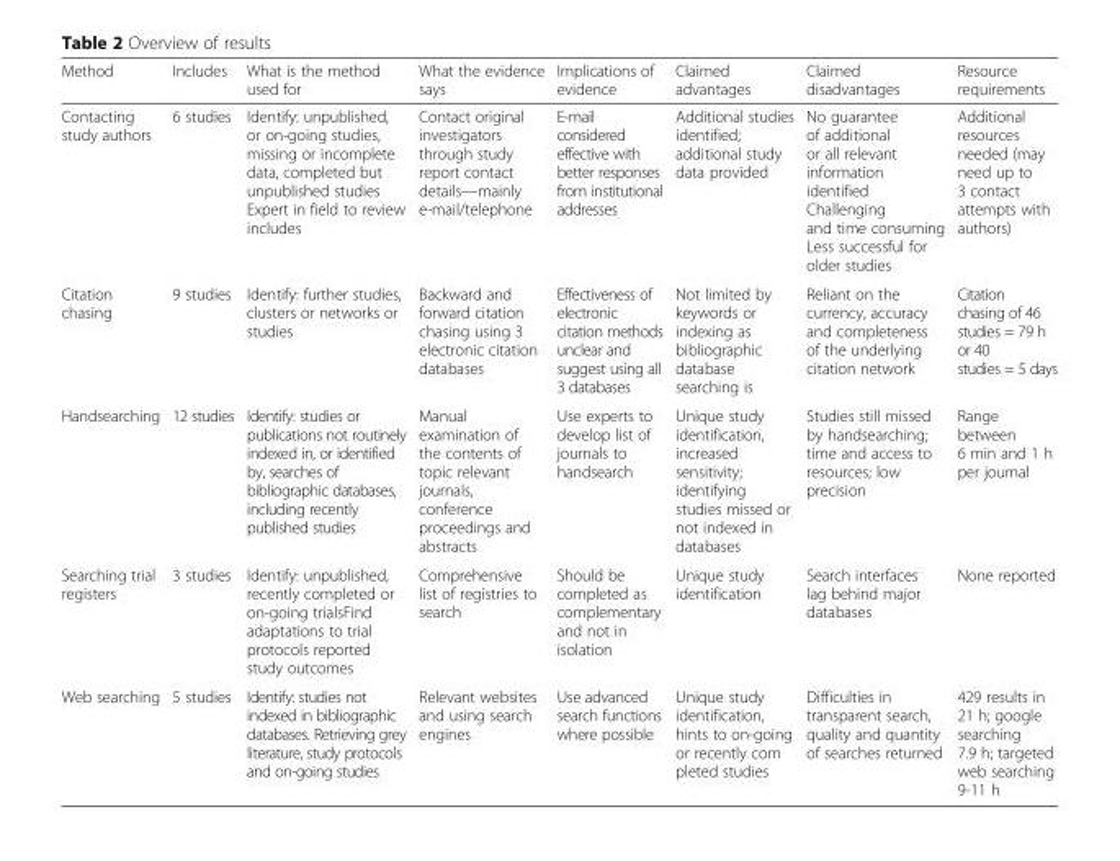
<table><thead><tr><td>Method</td><td>Includes</td><td>What is the method used for</td><td>What the evidence says</td><td>Implications of evidence</td><td>Claimed advantages</td><td>Claimed disadvantages</td><td>Resource requirements</td></tr></thead><tbody><tr><td>Contacting study authors</td><td>6 studies</td><td>Identify: unpublished, or on-going studies, missing or incomplete data, completed but unpublished studies Expert in field to review includes</td><td>Contact original investigators through study report contact details—mainly e-mail/telephone</td><td>E-mail considered effective with better responses from institutional addresses</td><td>Additional studies identified; additional study data provided</td><td>No guarantee of additional or all relevant information identified Challenging and time consuming Less successful for older studies</td><td>Additional resources needed (may need up to 3 contact attempts with authors)</td></tr><tr><td>Citation chasing</td><td>9 studies</td><td>Identify: further studies, clusters or networks or studies</td><td>Backward and forward citation chasing using 3 electronic citation databases</td><td>Effectiveness of electronic citation methods unclear and suggest using all 3 databases</td><td>Not limited by keywords or indexing as bibliographic database searching is</td><td>Reliant on the currency, accuracy and completeness of the underlying citation network</td><td>Citation chasing of 46 studies = 79 h or 40 studies = 5 days</td></tr><tr><td>Handsearching</td><td>12 studies</td><td>Identify: studies or publications not routinely indexed in, or identified by, searches of bibliographic databases, including recently published studies</td><td>Manual examination of the contents of topic relevant journals, conference proceedings and abstracts</td><td>Use experts to develop list of journals to handsearch</td><td>Unique study identification, increased sensitivity; identifying studies missed or not indexed in databases</td><td>Studies still missed by handsearching; time and access to resources; low precision</td><td>Range between 6 min and 1 h per journal</td></tr><tr><td>Searching trial registers</td><td>3 studies</td><td>Identify: unpublished, recently completed or on-going trialsFind adaptations to trial protocols reported study outcomes</td><td>Comprehensive list of registries to search</td><td>Should be completed as complementary and not in isolation</td><td>Unique study identification</td><td>Search interfaces lag behind major databases</td><td>None reported</td></tr><tr><td>Web searching</td><td>5 studies</td><td>Identify: studies not indexed in bibliographic databases. Retrieving grey literature, study protocols and on-going studies</td><td>Relevant websites and using search engines</td><td>Use advanced search functions where possible</td><td>Unique study identification, hints to on-going or recently com pleted studies</td><td>Difficulties in transparent search, quality and quantity of searches returned</td><td>429 results in 21 h; google searching 7.9 h; targeted web searching 9-11 h</td></tr></tbody></table>